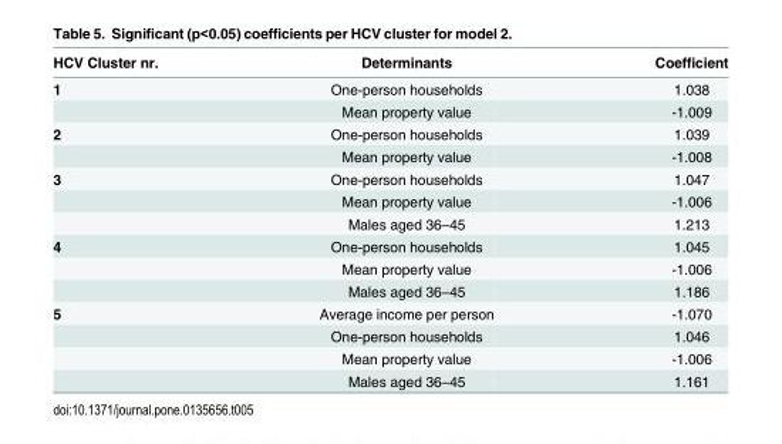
<table><thead><tr><td>HCV Cluster nr.</td><td>Determinants</td><td>Coefficient</td></tr></thead><tbody><tr><td rowspan="2">1</td><td>One-person households</td><td>1.038</td></tr><tr><td>Mean property value</td><td>-1.009</td></tr><tr><td rowspan="2">2</td><td>One-person households</td><td>1.039</td></tr><tr><td>Mean property value</td><td>-1.008</td></tr><tr><td rowspan="3">3</td><td>One-person households</td><td>1.047</td></tr><tr><td>Mean property value</td><td>-1.006</td></tr><tr><td>Males aged 36–45</td><td>1.213</td></tr><tr><td rowspan="3">4</td><td>One-person households</td><td>1.045</td></tr><tr><td>Mean property value</td><td>-1.006</td></tr><tr><td>Males aged 36–45</td><td>1.186</td></tr><tr><td rowspan="4">5</td><td>Average income per person</td><td>-1.070</td></tr><tr><td>One-person households</td><td>1.046</td></tr><tr><td>Mean property value</td><td>-1.006</td></tr><tr><td>Males aged 36–45</td><td>1.161</td></tr></tbody></table>